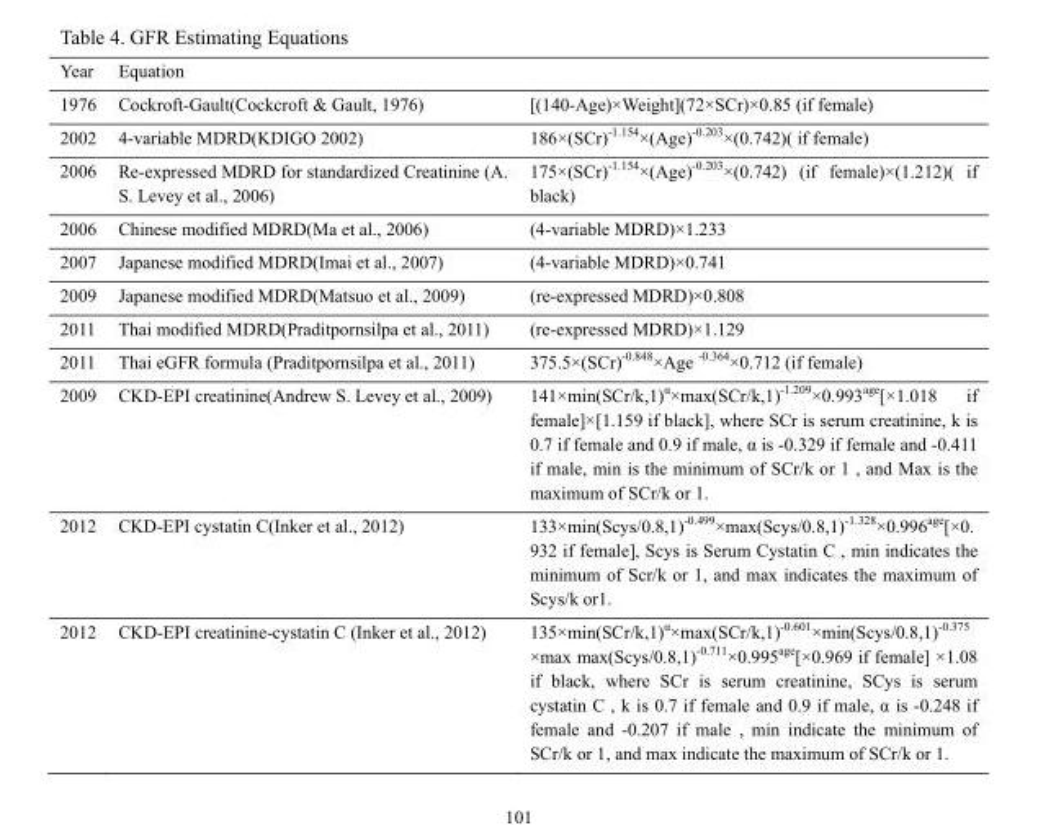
<table><thead><tr><td>Year</td><td>Equation</td><td></td></tr></thead><tbody><tr><td>1976</td><td>Cockroft-Gault(Cockcroft &amp; Gault, 1976)</td><td>[(140-Age)×Weight](72×SCr)×0.85 (if female)</td></tr><tr><td>2002</td><td>4-variable MDRD(KDIGO 2002)</td><td>186×(SCr)<sup>-1.154</sup>×(Age)<sup>-0.203</sup>×(0.742)( if female)</td></tr><tr><td>2006</td><td>Re-expressed MDRD for standardized Creatinine (A. S. Levey et al., 2006)</td><td>175×(SCr)<sup>-1.154</sup>×(Age)<sup>-0.203</sup>×(0.742) (if female)×(1.212)( if black)</td></tr><tr><td>2006</td><td>Chinese modified MDRD(Ma et al., 2006)</td><td>(4-variable MDRD)×1.233</td></tr><tr><td>2007</td><td>Japanese modified MDRD(Imai et al., 2007)</td><td>(4-variable MDRD)×0.741</td></tr><tr><td>2009</td><td>Japanese modified MDRD(Matsuo et al., 2009)</td><td>(re-expressed MDRD)×0.808</td></tr><tr><td>2011</td><td>Thai modified MDRD(Praditpornsilpa et al., 2011)</td><td>(re-expressed MDRD)×1.129</td></tr><tr><td>2011</td><td>Thai eGFR formula (Praditpornsilpa et al., 2011)</td><td>375.5×(SCr)<sup>-0.848</sup>×Age <sup>-0.364</sup>×0.712 (if female)</td></tr><tr><td>2009</td><td>CKD-EPI creatinine(Andrew S. Levey et al., 2009)</td><td>141×min(SCr/k,1)<sup>α</sup>×max(SCr/k,1)<sup>-1.209</sup>×0.993<sup>age</sup>[×1.018 if female]×[1.159 if black], where SCr is serum creatinine, k is 0.7 if female and 0.9 if male, α is -0.329 if female and -0.411 if male, min is the minimum of SCr/k or 1 , and Max is the maximum of SCr/k or 1.</td></tr><tr><td>2012</td><td>CKD-EPI cystatin C(Inker et al., 2012)</td><td>133×min(Scys/0.8,1)<sup>-0.499</sup>×max(Scys/0.8,1)<sup>-1.328</sup>×0.996<sup>age</sup>[×0. 932 if female], Scys is Serum Cystatin C , min indicates the minimum of Scr/k or 1, and max indicates the maximum of Scys/k or1.</td></tr><tr><td>2012</td><td>CKD-EPI creatinine-cystatin C (Inker et al., 2012)</td><td>135×min(SCr/k,1)<sup>α</sup>×max(SCr/k,1)<sup>-0.601</sup>×min(Scys/0.8,1)<sup>-0.375</sup> ×max max(Scys/0.8,1)<sup>-0.711</sup>×0.995<sup>age</sup>[×0.969 if female] ×1.08 if black, where SCr is serum creatinine, SCys is serum cystatin C , k is 0.7 if female and 0.9 if male, α is -0.248 if female and -0.207 if male , min indicate the minimum of SCr/k or 1, and max indicate the maximum of SCr/k or 1.</td></tr></tbody></table>